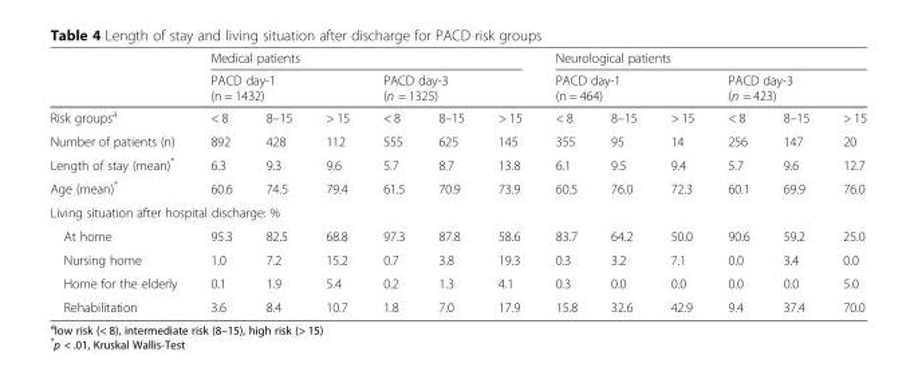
<table><thead><tr><td rowspan="3">Risk groups<sup>a</sup></td><td colspan="6">Medical patients</td><td colspan="6">Neurological patients</td></tr><tr><td colspan="3">PACD day-1 (n = 1432)</td><td colspan="3">PACD day-3 (n = 1325)</td><td colspan="3">PACD day-1 (n = 464)</td><td colspan="3">PACD day-3 (n = 423)</td></tr><tr><td>&lt; 8</td><td>8–15</td><td>&gt; 15</td><td>&lt; 8</td><td>8–15</td><td>&gt; 15</td><td>&lt; 8</td><td>8–15</td><td>&gt; 15</td><td>&lt; 8</td><td>8–15</td><td>&gt; 15</td></tr></thead><tbody><tr><td>Number of patients (n)</td><td>892</td><td>428</td><td>112</td><td>555</td><td>625</td><td>145</td><td>355</td><td>95</td><td>14</td><td>256</td><td>147</td><td>20</td></tr><tr><td>Length of stay (mean)*</td><td>6.3</td><td>9.3</td><td>9.6</td><td>5.7</td><td>8.7</td><td>13.8</td><td>6.1</td><td>9.5</td><td>9.4</td><td>5.7</td><td>9.6</td><td>12.7</td></tr><tr><td>Age (mean)*</td><td>60.6</td><td>74.5</td><td>79.4</td><td>61.5</td><td>70.9</td><td>73.9</td><td>60.5</td><td>76.0</td><td>72.3</td><td>60.1</td><td>69.9</td><td>76.0</td></tr><tr><td colspan="13">Living situation after hospital discharge: %</td></tr><tr><td>At home</td><td>95.3</td><td>82.5</td><td>68.8</td><td>97.3</td><td>87.8</td><td>58.6</td><td>83.7</td><td>64.2</td><td>50.0</td><td>90.6</td><td>59.2</td><td>25.0</td></tr><tr><td>Nursing home</td><td>1.0</td><td>7.2</td><td>15.2</td><td>0.7</td><td>3.8</td><td>19.3</td><td>0.3</td><td>3.2</td><td>7.1</td><td>0.0</td><td>3.4</td><td>0.0</td></tr><tr><td>Home for the elderly</td><td>0.1</td><td>1.9</td><td>5.4</td><td>0.2</td><td>1.3</td><td>4.1</td><td>0.3</td><td>0.0</td><td>0.0</td><td>0.0</td><td>0.0</td><td>5.0</td></tr><tr><td>Rehabilitation</td><td>3.6</td><td>8.4</td><td>10.7</td><td>1.8</td><td>7.0</td><td>17.9</td><td>15.8</td><td>32.6</td><td>42.9</td><td>9.4</td><td>37.4</td><td>70.0</td></tr></tbody></table>